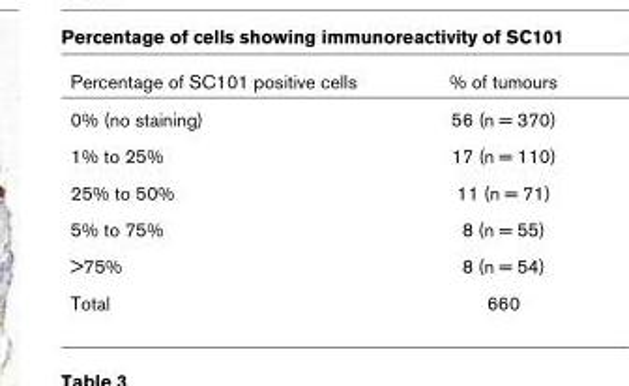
<table><thead><tr><td>Percentage of SC101 positive cells</td><td>% of tumours</td></tr></thead><tbody><tr><td>0% (no staining)</td><td>56 (n = 370)</td></tr><tr><td>1% to 25%</td><td>17 (n = 110)</td></tr><tr><td>25% to 50%</td><td>11 (n = 71)</td></tr><tr><td>5% to 75%</td><td>8 (n = 55)</td></tr><tr><td>&gt;75%</td><td>8 (n = 54)</td></tr><tr><td>Total</td><td>660</td></tr></tbody></table>